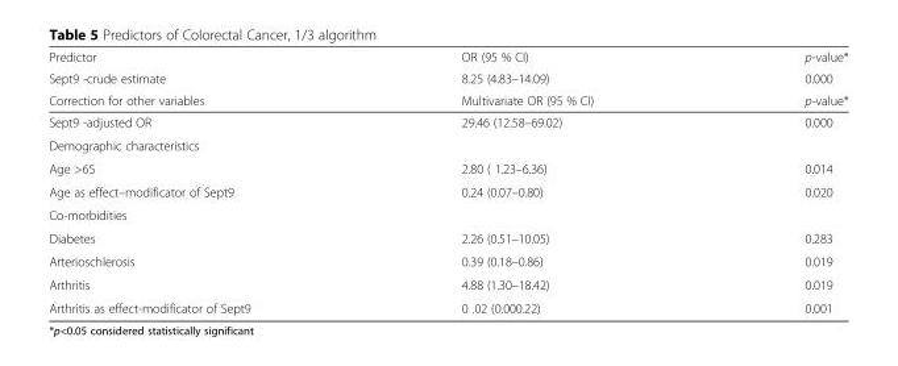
<table><thead><tr><td rowspan="3">Predictor Sept9 -crude estimate Correction for other variables</td><td rowspan="3">OR (95 % CI) 8.25 (4.83–14.09) Multivariate OR (95 % CI)</td><td rowspan="3">p-value* 0.000 p-value*</td></tr><tr></tr><tr></tr></thead><tbody><tr><td>Sept9 -adjusted OR</td><td>29.46 (12.58–69.02)</td><td>0.000</td></tr><tr><td colspan="3">Demographic characteristics</td></tr><tr><td>Age &gt;65</td><td>2.80 ( 1.23–6.36)</td><td>0.014</td></tr><tr><td>Age as effect–modificator of Sept9</td><td>0.24 (0.07–0.80)</td><td>0.020</td></tr><tr><td colspan="3">Co-morbidities</td></tr><tr><td>Diabetes</td><td>2.26 (0.51–10.05)</td><td>0.283</td></tr><tr><td>Arterioschlerosis</td><td>0.39 (0.18–0.86)</td><td>0.019</td></tr><tr><td>Arthritis</td><td>4.88 (1.30–18.42)</td><td>0.019</td></tr><tr><td>Arthritis as effect-modificator of Sept9</td><td>0 .02 (0.000.22)</td><td>0.001</td></tr></tbody></table>